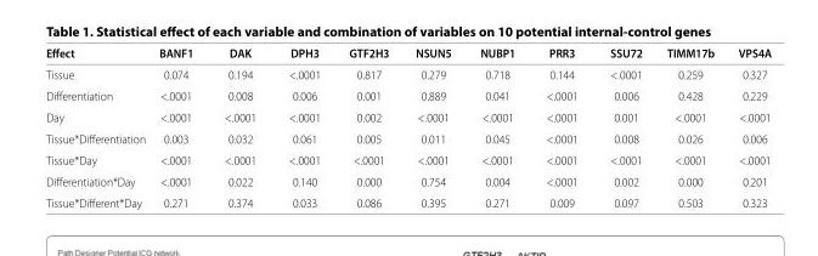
<table><thead><tr><td>Effect</td><td>BANF1</td><td>DAK</td><td>DPH3</td><td>GTF2H3</td><td>NSUN5</td><td>NUBP1</td><td>PRR3</td><td>SSU72</td><td>TIMM17b</td><td>VPS4A</td></tr></thead><tbody><tr><td>Tissue</td><td>0.074</td><td>0.194</td><td>&lt;.0001</td><td>0.817</td><td>0.279</td><td>0.718</td><td>0.144</td><td>&lt;.0001</td><td>0.259</td><td>0.327</td></tr><tr><td>Differentiation</td><td>&lt;.0001</td><td>0.008</td><td>0.006</td><td>0.001</td><td>0.889</td><td>0.041</td><td>&lt;.0001</td><td>0.006</td><td>0.428</td><td>0.229</td></tr><tr><td>Day</td><td>&lt;.0001</td><td>&lt;.0001</td><td>&lt;.0001</td><td>0.002</td><td>&lt;.0001</td><td>&lt;.0001</td><td>&lt;.0001</td><td>0.001</td><td>&lt;.0001</td><td>&lt;.0001</td></tr><tr><td>Tissue*Differentiation</td><td>0.003</td><td>0.032</td><td>0.061</td><td>0.005</td><td>0.011</td><td>0.045</td><td>&lt;.0001</td><td>0.008</td><td>0.026</td><td>0.006</td></tr><tr><td>Tissue*Day</td><td>&lt;.0001</td><td>&lt;.0001</td><td>&lt;.0001</td><td>&lt;.0001</td><td>&lt;.0001</td><td>&lt;.0001</td><td>&lt;.0001</td><td>&lt;.0001</td><td>&lt;.0001</td><td>&lt;.0001</td></tr><tr><td>Differentiation*Day</td><td>&lt;.0001</td><td>0.022</td><td>0.140</td><td>0.000</td><td>0.754</td><td>0.004</td><td>&lt;.0001</td><td>0.002</td><td>0.000</td><td>0.201</td></tr><tr><td>Tissue*Different*Day</td><td>0.271</td><td>0.374</td><td>0.033</td><td>0.086</td><td>0.395</td><td>0.271</td><td>0.009</td><td>0.097</td><td>0.503</td><td>0.323</td></tr></tbody></table>